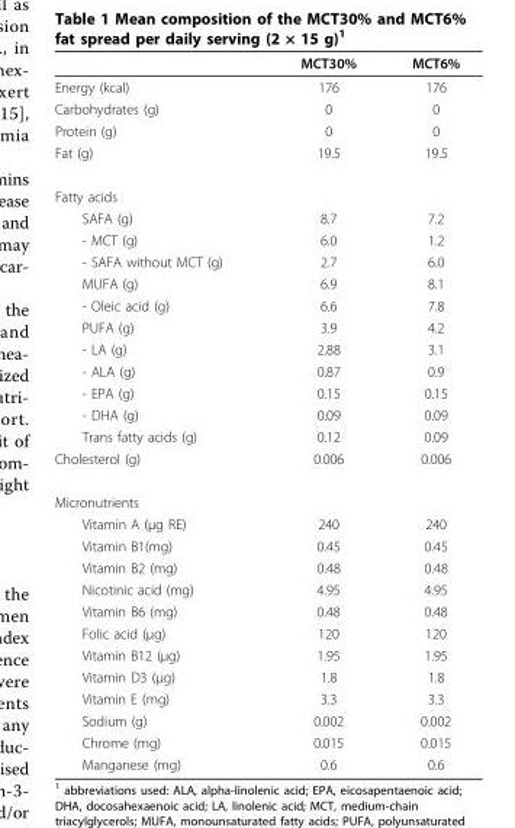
<table><thead><tr><td></td><td>MCT30%</td><td>MCT6%</td></tr></thead><tbody><tr><td>Energy (kcal)</td><td>176</td><td>176</td></tr><tr><td>Carbohydrates (g)</td><td>0</td><td>0</td></tr><tr><td>Protein (g)</td><td>0</td><td>0</td></tr><tr><td>Fat (g)</td><td>19.5</td><td>19.5</td></tr><tr><td colspan="3">Fatty acids</td></tr><tr><td>SAFA (g)</td><td>8.7</td><td>7.2</td></tr><tr><td>- MCT (g)</td><td>6.0</td><td>1.2</td></tr><tr><td>- SAFA without MCT (g)</td><td>2.7</td><td>6.0</td></tr><tr><td>MUFA (g)</td><td>6.9</td><td>8.1</td></tr><tr><td>- Oleic acid (g)</td><td>6.6</td><td>7.8</td></tr><tr><td>PUFA (g)</td><td>3.9</td><td>4.2</td></tr><tr><td>- LA (g)</td><td>2.88</td><td>3.1</td></tr><tr><td>- ALA (g)</td><td>0.87</td><td>0.9</td></tr><tr><td>- EPA (g)</td><td>0.15</td><td>0.15</td></tr><tr><td>- DHA (g)</td><td>0.09</td><td>0.09</td></tr><tr><td>Trans fatty acids (g)</td><td>0.12</td><td>0.09</td></tr><tr><td>Cholesterol (g)</td><td>0.006</td><td>0.006</td></tr><tr><td colspan="3">Micronutrients</td></tr><tr><td>Vitamin A (μg RE)</td><td>240</td><td>240</td></tr><tr><td>Vitamin B1(mg)</td><td>0.45</td><td>0.45</td></tr><tr><td>Vitamin B2 (mg)</td><td>0.48</td><td>0.48</td></tr><tr><td>Nicotinic acid (mg)</td><td>4.95</td><td>4.95</td></tr><tr><td>Vitamin B6 (mg)</td><td>0.48</td><td>0.48</td></tr><tr><td>Folic acid (μg)</td><td>120</td><td>120</td></tr><tr><td>Vitamin B12 (μg)</td><td>1.95</td><td>1.95</td></tr><tr><td>Vitamin D3 (μg)</td><td>1.8</td><td>1.8</td></tr><tr><td>Vitamin E (mg)</td><td>3.3</td><td>3.3</td></tr><tr><td>Sodium (g)</td><td>0.002</td><td>0.002</td></tr><tr><td>Chrome (mg)</td><td>0.015</td><td>0.015</td></tr><tr><td>Manganese (mg)</td><td>0.6</td><td>0.6</td></tr></tbody></table>